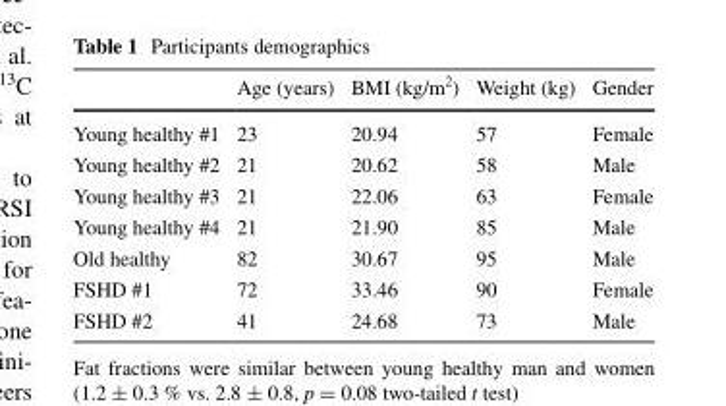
<table><thead><tr><td></td><td>Age (years)</td><td>BMI (kg/m<sup>2</sup>)</td><td>Weight (kg)</td><td>Gender</td></tr></thead><tbody><tr><td>Young healthy #1</td><td>23</td><td>20.94</td><td>57</td><td>Female</td></tr><tr><td>Young healthy #2</td><td>21</td><td>20.62</td><td>58</td><td>Male</td></tr><tr><td>Young healthy #3</td><td>21</td><td>22.06</td><td>63</td><td>Female</td></tr><tr><td>Young healthy #4</td><td>21</td><td>21.90</td><td>85</td><td>Male</td></tr><tr><td>Old healthy</td><td>82</td><td>30.67</td><td>95</td><td>Male</td></tr><tr><td>FSHD #1</td><td>72</td><td>33.46</td><td>90</td><td>Female</td></tr><tr><td>FSHD #2</td><td>41</td><td>24.68</td><td>73</td><td>Male</td></tr></tbody></table>